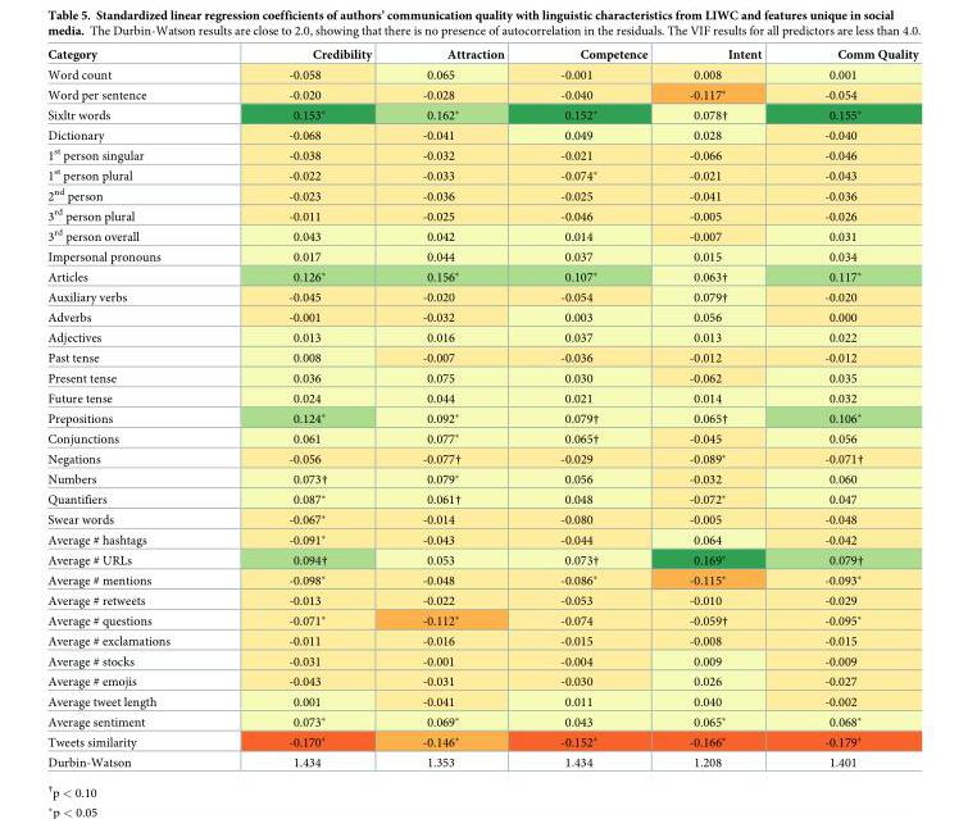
<table><thead><tr><td>Category</td><td>Credibility</td><td>Attraction</td><td>Competence</td><td>Intent</td><td>Comm Quality</td></tr></thead><tbody><tr><td>Word count</td><td>-0.058</td><td>0.065</td><td>-0.001</td><td>0.008</td><td>0.001</td></tr><tr><td>Word per sentence</td><td>-0.020</td><td>-0.028</td><td>-0.040</td><td>-0.117*</td><td>-0.054</td></tr><tr><td>Sixltr words</td><td>0.153*</td><td>0.162*</td><td>0.152*</td><td>0.078†</td><td>0.155*</td></tr><tr><td>Dictionary</td><td>-0.068</td><td>-0.041</td><td>0.049</td><td>0.028</td><td>-0.040</td></tr><tr><td>1<sup>st</sup> person singular</td><td>-0.038</td><td>-0.032</td><td>-0.021</td><td>-0.066</td><td>-0.046</td></tr><tr><td>1<sup>st</sup> person plural</td><td>-0.022</td><td>-0.033</td><td>-0.074*</td><td>-0.021</td><td>-0.043</td></tr><tr><td>2<sup>nd</sup> person</td><td>-0.023</td><td>-0.036</td><td>-0.025</td><td>-0.041</td><td>-0.036</td></tr><tr><td>3<sup>rd</sup> person plural</td><td>-0.011</td><td>-0.025</td><td>-0.046</td><td>-0.005</td><td>-0.026</td></tr><tr><td>3<sup>rd</sup> person overall</td><td>0.043</td><td>0.042</td><td>0.014</td><td>-0.007</td><td>0.031</td></tr><tr><td>Impersonal pronouns</td><td>0.017</td><td>0.044</td><td>0.037</td><td>0.015</td><td>0.034</td></tr><tr><td>Articles</td><td>0.126*</td><td>0.156*</td><td>0.107*</td><td>0.063†</td><td>0.117*</td></tr><tr><td>Auxiliary verbs</td><td>-0.045</td><td>-0.020</td><td>-0.054</td><td>0.079†</td><td>-0.020</td></tr><tr><td>Adverbs</td><td>-0.001</td><td>-0.032</td><td>0.003</td><td>0.056</td><td>0.000</td></tr><tr><td>Adjectives</td><td>0.013</td><td>0.016</td><td>0.037</td><td>0.013</td><td>0.022</td></tr><tr><td>Past tense</td><td>0.008</td><td>-0.007</td><td>-0.036</td><td>-0.012</td><td>-0.012</td></tr><tr><td>Present tense</td><td>0.036</td><td>0.075</td><td>0.030</td><td>-0.062</td><td>0.035</td></tr><tr><td>Future tense</td><td>0.024</td><td>0.044</td><td>0.021</td><td>0.014</td><td>0.032</td></tr><tr><td>Prepositions</td><td>0.124*</td><td>0.092*</td><td>0.079†</td><td>0.065†</td><td>0.106*</td></tr><tr><td>Conjunctions</td><td>0.061</td><td>0.077*</td><td>0.065†</td><td>-0.045</td><td>0.056</td></tr><tr><td>Negations</td><td>-0.056</td><td>-0.077†</td><td>-0.029</td><td>-0.089*</td><td>-0.071†</td></tr><tr><td>Numbers</td><td>0.073†</td><td>0.079*</td><td>0.056</td><td>-0.032</td><td>0.060</td></tr><tr><td>Quantifiers</td><td>0.087*</td><td>0.061†</td><td>0.048</td><td>-0.072*</td><td>0.047</td></tr><tr><td>Swear words</td><td>-0.067*</td><td>-0.014</td><td>-0.080</td><td>-0.005</td><td>-0.048</td></tr><tr><td>Average # hashtags</td><td>-0.091*</td><td>-0.043</td><td>-0.044</td><td>0.064</td><td>-0.042</td></tr><tr><td>Average # URLs</td><td>0.094†</td><td>0.053</td><td>0.073†</td><td>0.169*</td><td>0.079†</td></tr><tr><td>Average # mentions</td><td>-0.098*</td><td>-0.048</td><td>-0.086*</td><td>-0.115*</td><td>-0.093*</td></tr><tr><td>Average # retweets</td><td>-0.013</td><td>-0.022</td><td>-0.053</td><td>-0.010</td><td>-0.029</td></tr><tr><td>Average # questions</td><td>-0.071*</td><td>-0.112*</td><td>-0.074</td><td>-0.059†</td><td>-0.095*</td></tr><tr><td>Average # exclamations</td><td>-0.011</td><td>-0.016</td><td>-0.015</td><td>-0.008</td><td>-0.015</td></tr><tr><td>Average # stocks</td><td>-0.031</td><td>-0.001</td><td>-0.004</td><td>0.009</td><td>-0.009</td></tr><tr><td>Average # emojis</td><td>-0.043</td><td>-0.031</td><td>-0.030</td><td>0.026</td><td>-0.027</td></tr><tr><td>Average tweet length</td><td>0.001</td><td>-0.041</td><td>0.011</td><td>0.040</td><td>-0.002</td></tr><tr><td>Average sentiment</td><td>0.073*</td><td>0.069*</td><td>0.043</td><td>0.065*</td><td>0.068*</td></tr><tr><td>Tweets similarity</td><td>-0.170*</td><td>-0.146*</td><td>-0.152*</td><td>-0.166*</td><td>-0.179*</td></tr><tr><td>Durbin-Watson</td><td>1.434</td><td>1.353</td><td>1.434</td><td>1.208</td><td>1.401</td></tr></tbody></table>